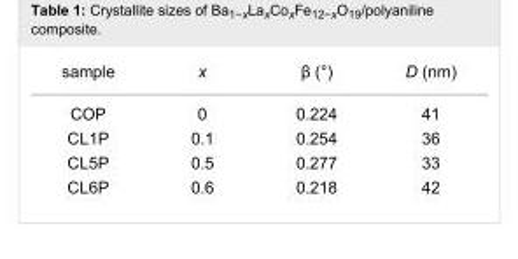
<table><tbody><tr><td>sample</td><td>x</td><td>β (°)</td><td>D (nm)</td></tr><tr><td>COP</td><td>0</td><td>0.224</td><td>41</td></tr><tr><td>CL1P</td><td>0.1</td><td>0.254</td><td>36</td></tr><tr><td>CL5P</td><td>0.5</td><td>0.277</td><td>33</td></tr><tr><td>CL6P</td><td>0.6</td><td>0.218</td><td>42</td></tr></tbody></table>